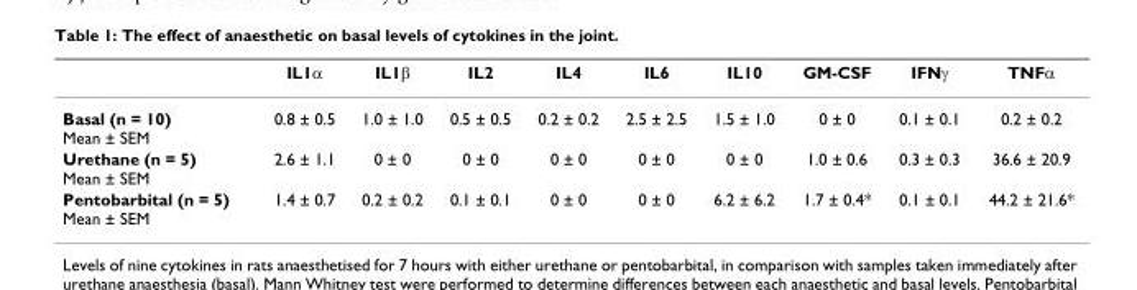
<table><thead><tr><td></td><td>IL1α</td><td>IL1β</td><td>IL2</td><td>IL4</td><td>IL6</td><td>IL10</td><td>GM-CSF</td><td>IFNγ</td><td>TNFα</td></tr></thead><tbody><tr><td>Basal (n = 10) Mean ± SEM</td><td>0.8 ± 0.5</td><td>1.0 ± 1.0</td><td>0.5 ± 0.5</td><td>0.2 ± 0.2</td><td>2.5 ± 2.5</td><td>1.5 ± 1.0</td><td>0 ± 0</td><td>0.1 ± 0.1</td><td>0.2 ± 0.2</td></tr><tr><td>Urethane (n = 5) Mean ± SEM</td><td>2.6 ± 1.1</td><td>0 ± 0</td><td>0 ± 0</td><td>0 ± 0</td><td>0 ± 0</td><td>0 ± 0</td><td>1.0 ± 0.6</td><td>0.3 ± 0.3</td><td>36.6 ± 20.9</td></tr><tr><td>Pentobarbital (n = 5) Mean ± SEM</td><td>1.4 ± 0.7</td><td>0.2 ± 0.2</td><td>0.1 ± 0.1</td><td>0 ± 0</td><td>0 ± 0</td><td>6.2 ± 6.2</td><td>1.7 ± 0.4*</td><td>0.1 ± 0.1</td><td>44.2 ± 21.6*</td></tr></tbody></table>